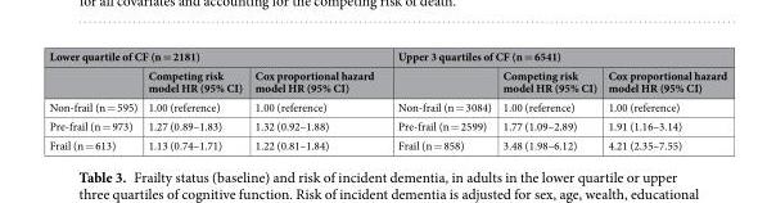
<table><thead><tr><td colspan="3">Lower quartile of CF (n = 2181)</td><td colspan="3">Upper 3 quartiles of CF (n = 6541)</td></tr><tr><td></td><td>Competing risk model HR (95% CI)</td><td>Cox proportional hazard model HR (95% CI)</td><td></td><td>Competing risk model HR (95% CI)</td><td>Cox proportional hazard model HR (95% CI)</td></tr></thead><tbody><tr><td>Non-frail (n = 595)</td><td>1.00 (reference)</td><td>1.00 (reference)</td><td>Non-frail (n = 3084)</td><td>1.00 (reference)</td><td>1.00 (reference)</td></tr><tr><td>Pre-frail (n = 973)</td><td>1.27 (0.89–1.83)</td><td>1.32 (0.92–1.88)</td><td>Pre-frail (n = 2599)</td><td>1.77 (1.09–2.89)</td><td>1.91 (1.16–3.14)</td></tr><tr><td>Frail (n = 613)</td><td>1.13 (0.74–1.71)</td><td>1.22 (0.81–1.84)</td><td>Frail (n = 858)</td><td>3.48 (1.98–6.12)</td><td>4.21 (2.35–7.55)</td></tr></tbody></table>